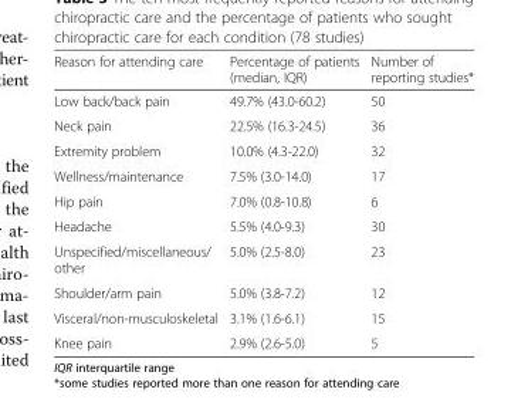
<table><thead><tr><td>Reason for attending care</td><td>Percentage of patients (median, IQR)</td><td>Number of reporting studies*</td></tr></thead><tbody><tr><td>Low back/back pain</td><td>49.7% (43.0-60.2)</td><td>50</td></tr><tr><td>Neck pain</td><td>22.5% (16.3-24.5)</td><td>36</td></tr><tr><td>Extremity problem</td><td>10.0% (4.3-22.0)</td><td>32</td></tr><tr><td>Wellness/maintenance</td><td>7.5% (3.0-14.0)</td><td>17</td></tr><tr><td>Hip pain</td><td>7.0% (0.8-10.8)</td><td>6</td></tr><tr><td>Headache</td><td>5.5% (4.0-9.3)</td><td>30</td></tr><tr><td>Unspecified/miscellaneous/ other</td><td>5.0% (2.5-8.0)</td><td>23</td></tr><tr><td>Shoulder/arm pain</td><td>5.0% (3.8-7.2)</td><td>12</td></tr><tr><td>Visceral/non-musculoskeletal</td><td>3.1% (1.6-6.1)</td><td>15</td></tr><tr><td>Knee pain</td><td>2.9% (2.6-5.0)</td><td>5</td></tr></tbody></table>